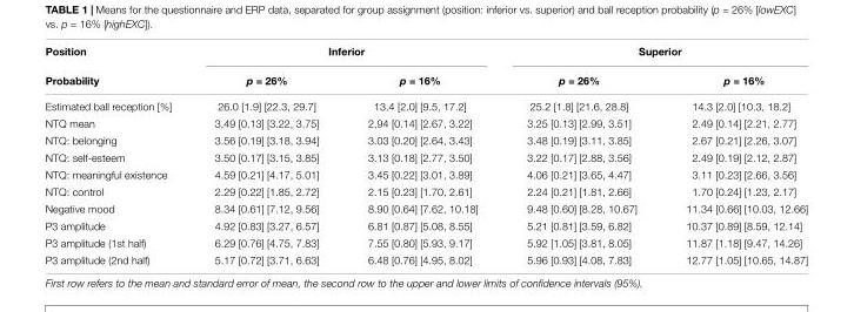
<table><thead><tr><td rowspan="2">Position Probability</td><td colspan="2">Inferior</td><td colspan="2">Superior</td></tr><tr><td>p = 26%</td><td>p = 16%</td><td>p = 26%</td><td>p = 16%</td></tr></thead><tbody><tr><td>Estimated ball reception [%]</td><td>26.0 [1.9] [22.3, 29.7]</td><td>13.4 [2.0] [9.5, 17.2]</td><td>25.2 [1.8] [21.6, 28.8]</td><td>14.3 [2.0] [10.3, 18.2]</td></tr><tr><td>NTQ mean</td><td>3,49 [0.13] [3.22, 3.75]</td><td>2,94 [0.14] [2.67, 3.22]</td><td>3.25 [0.13] [2.99, 3.51]</td><td>2.49 [0.14] [2.21, 2.77]</td></tr><tr><td>NTQ: belonging</td><td>3.56 [0.19] [3.18, 3.94]</td><td>3.03 [0.20] [2.64, 3.43]</td><td>3.48 [0.19] [3.11, 3.85]</td><td>2.67 [0.21] [2.26, 3.07]</td></tr><tr><td>NTQ: self-esteem</td><td>3.50 [0.17] [3.15, 3.85]</td><td>3.13 [0.18] [2.77, 3.50]</td><td>3.22 [0.17] [2.88, 3.56]</td><td>2.49 [0.19] [2.12, 2.87]</td></tr><tr><td>NTQ: meaningful existence</td><td>4.59 [0.21] [4.17, 5.01]</td><td>3.45 [0.22] [3.01, 3.89]</td><td>4.06 [0.21] [3.65, 4.47]</td><td>3.11 [0.23] [2.66, 3.56]</td></tr><tr><td>NTQ: control</td><td>2.29 [0.22] [1.85, 2.72]</td><td>2.15 [0.23] [1.70, 2.61]</td><td>2.24 [0.21] [1.81, 2.66]</td><td>1.70 [0.24] [1.23, 2.17]</td></tr><tr><td>Negative mood</td><td>8.34 [0.61] [7.12, 9.56]</td><td>8.90 [0.64] [7.62, 10.18]</td><td>9.48 [0.60] [8.28, 10.67]</td><td>11.34 [0.66] [10.03, 12.66]</td></tr><tr><td>P3 amplitude</td><td>4.92 [0.83] [3.27, 6.57]</td><td>6.81 [0.87] [5.08, 8.55]</td><td>5.21 [0.81] [3.59, 6.82]</td><td>10.37 [0.89] [8.59, 12.14]</td></tr><tr><td>P3 amplitude (1st half)</td><td>6.29 [0.76] [4.75, 7.83]</td><td>7.55 [0.80] [5.93, 9.17]</td><td>5.92 [1.05] [3.81, 8.05]</td><td>11.87 [1.18] [9.47, 14.26]</td></tr><tr><td>P3 amplitude (2nd half)</td><td>5.17 [0.72] [3.71, 6.63]</td><td>6.48 [0.76] [4.95, 8.02]</td><td>5.96 [0.93] [4.08, 7.83]</td><td>12.77 [1.05] [10.65, 14.87]</td></tr></tbody></table>